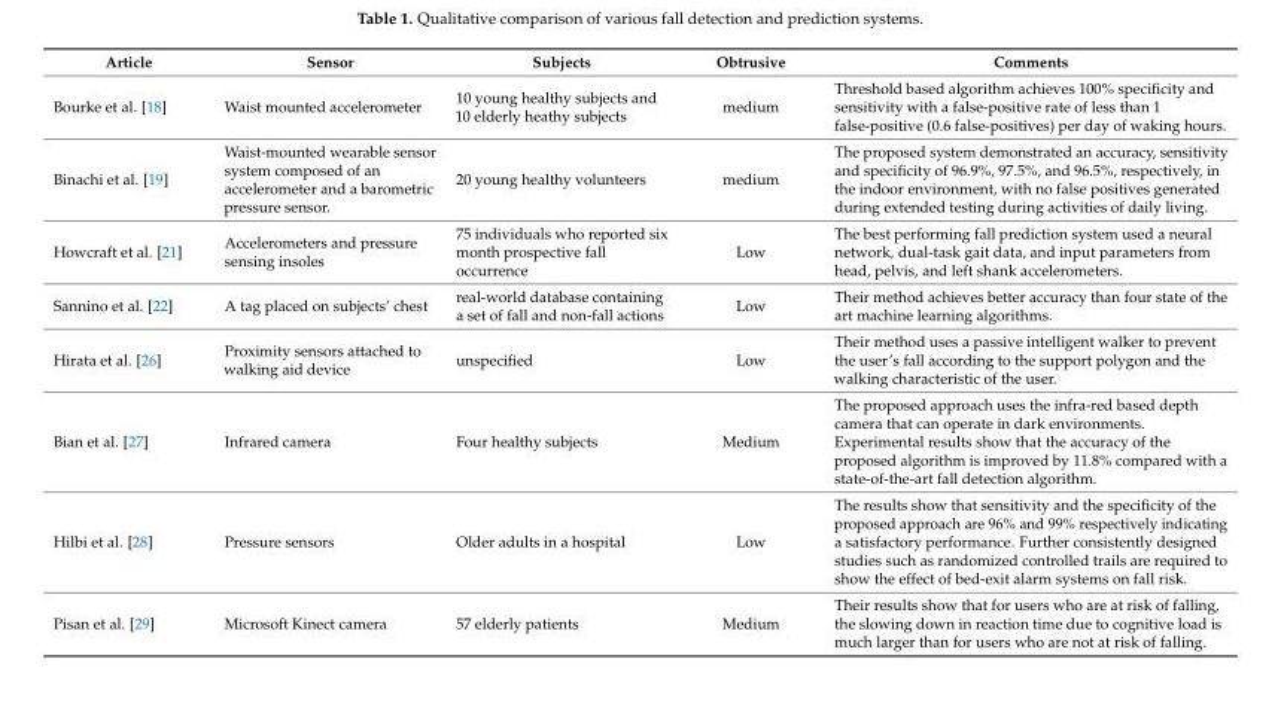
<table><thead><tr><td>Article</td><td>Sensor</td><td>Subjects</td><td>Obtrusive</td><td>Comments</td></tr></thead><tbody><tr><td>Bourke et al. [18]</td><td>Waist mounted accelerometer</td><td>10 young healthy subjects and 10 elderly heathy subjects</td><td>medium</td><td>Threshold based algorithm achieves 100% specificity and sensitivity with a false-positive rate of less than 1 false-positive (0.6 false-positives) per day of waking hours.</td></tr><tr><td>Binachi et al. [19]</td><td>Waist-mounted wearable sensor system composed of an accelerometer and a barometric pressure sensor.</td><td>20 young healthy volunteers</td><td>medium</td><td>The proposed system demonstrated an accuracy, sensitivity and specificity of 96.9%, 97.5%, and 96.5%, respectively, in the indoor environment, with no false positives generated during extended testing during activities of daily living.</td></tr><tr><td>Howcraft et al. [21]</td><td>Accelerometers and pressure sensing insoles</td><td>75 individuals who reported six month prospective fall occurrence</td><td>Low</td><td>The best performing fall prediction system used a neural network, dual-task gait data, and input parameters from head, pelvis, and left shank accelerometers.</td></tr><tr><td>Sannino et al. [22]</td><td>A tag placed on subjects’ chest</td><td>real-world database containing a set of fall and non-fall actions</td><td>Low</td><td>Their method achieves better accuracy than four state of the art machine learning algorithms.</td></tr><tr><td>Hirata et al. [26]</td><td>Proximity sensors attached to walking aid device</td><td>unspecified</td><td>Low</td><td>Their method uses a passive intelligent walker to prevent the user’s fall according to the support polygon and the walking characteristic of the user.</td></tr><tr><td>Bian et al. [27]</td><td>Infrared camera</td><td>Four healthy subjects</td><td>Medium</td><td>The proposed approach uses the infra-red based depth camera that can operate in dark environments. Experimental results show that the accuracy of the proposed algorithm is improved by 11.8% compared with a state-of-the-art fall detection algorithm.</td></tr><tr><td>Hilbi et al. [28]</td><td>Pressure sensors</td><td>Older adults in a hospital</td><td>Low</td><td>The results show that sensitivity and the specificity of the proposed approach are 96% and 99% respectively indicating a satisfactory performance. Further consistently designed studies such as randomized controlled trails are required to show the effect of bed-exit alarm systems on fall risk.</td></tr><tr><td>Pisan et al. [29]</td><td>Microsoft Kinect camera</td><td>57 elderly patients</td><td>Medium</td><td>Their results show that for users who are at risk of falling, the slowing down in reaction time due to cognitive load is much larger than for users who are not at risk of falling.</td></tr></tbody></table>